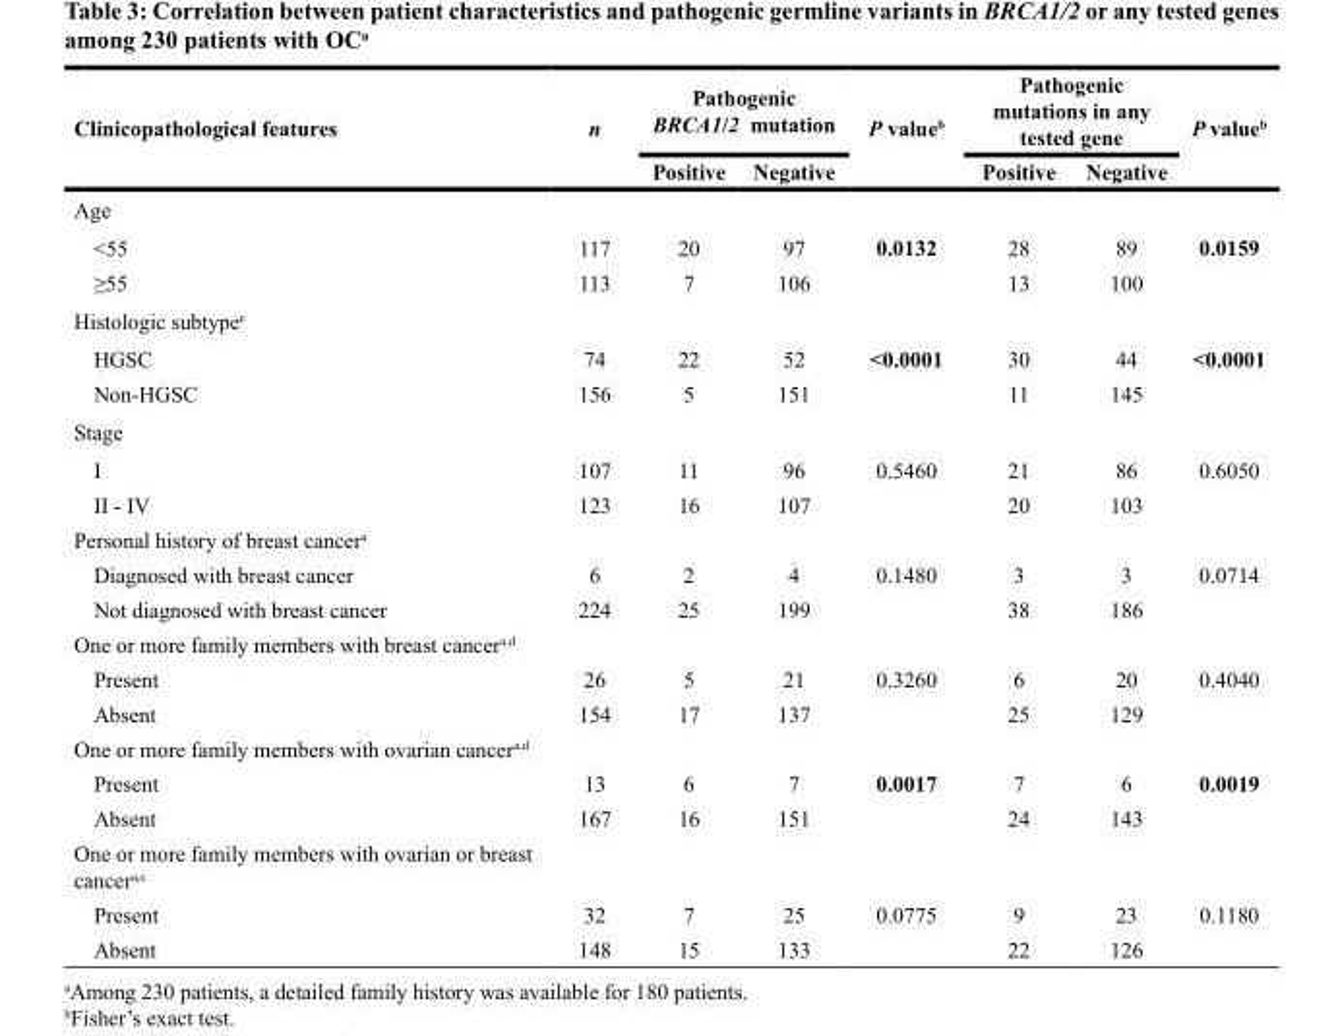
<table><thead><tr><td rowspan="2">Clinicopathological features</td><td rowspan="2">n</td><td colspan="2">Pathogenic BRCA1/2 mutation</td><td rowspan="2">P value<sup>b</sup></td><td colspan="2">Pathogenic mutations in any tested gene</td><td rowspan="2">P value<sup>b</sup></td></tr><tr><td>Positive</td><td>Negative</td><td>Positive</td><td>Negative</td></tr></thead><tbody><tr><td colspan="8">Age</td></tr><tr><td>&lt;55</td><td>117</td><td>20</td><td>97</td><td>0.0132</td><td>28</td><td>89</td><td>0.0159</td></tr><tr><td>≥55</td><td>113</td><td>7</td><td>106</td><td></td><td>13</td><td>100</td><td></td></tr><tr><td colspan="8">Histologic subtype<sup>c</sup></td></tr><tr><td>HGSC</td><td>74</td><td>22</td><td>52</td><td>&lt;0.0001</td><td>30</td><td>44</td><td>&lt;0.0001</td></tr><tr><td>Non-HGSC</td><td>156</td><td>5</td><td>151</td><td></td><td>11</td><td>145</td><td></td></tr><tr><td colspan="8">Stage</td></tr><tr><td>I</td><td>107</td><td>11</td><td>96</td><td>0.5460</td><td>21</td><td>86</td><td>0.6050</td></tr><tr><td>II - IV</td><td>123</td><td>16</td><td>107</td><td></td><td>20</td><td>103</td><td></td></tr><tr><td colspan="8">Personal history of breast cancer<sup>a</sup></td></tr><tr><td>Diagnosed with breast cancer</td><td>6</td><td>2</td><td>4</td><td>0.1480</td><td>3</td><td>3</td><td>0.0714</td></tr><tr><td>Not diagnosed with breast cancer</td><td>224</td><td>25</td><td>199</td><td></td><td>38</td><td>186</td><td></td></tr><tr><td colspan="8">One or more family members with breast cancer<sup>a,d</sup></td></tr><tr><td>Present</td><td>26</td><td>5</td><td>21</td><td>0.3260</td><td>6</td><td>20</td><td>0.4040</td></tr><tr><td>Absent</td><td>154</td><td>17</td><td>137</td><td></td><td>25</td><td>129</td><td></td></tr><tr><td colspan="8">One or more family members with ovarian cancer<sup>a,d</sup></td></tr><tr><td>Present</td><td>13</td><td>6</td><td>7</td><td>0.0017</td><td>7</td><td>6</td><td>0.0019</td></tr><tr><td>Absent</td><td>167</td><td>16</td><td>151</td><td></td><td>24</td><td>143</td><td></td></tr><tr><td colspan="8">One or more family members with ovarian or breast cancer<sup>a,c</sup></td></tr><tr><td>Present</td><td>32</td><td>7</td><td>25</td><td>0.0775</td><td>9</td><td>23</td><td>0.1180</td></tr><tr><td>Absent</td><td>148</td><td>15</td><td>133</td><td></td><td>22</td><td>126</td><td></td></tr></tbody></table>